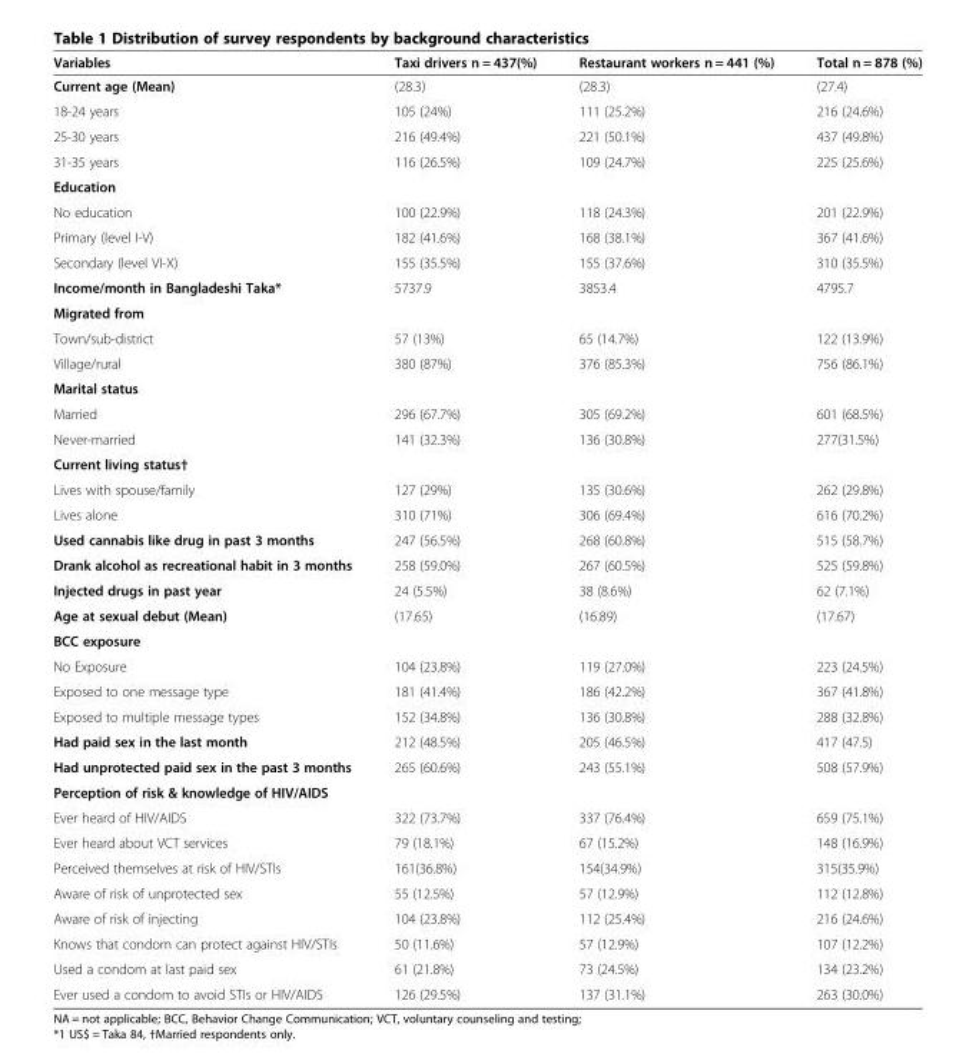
<table><thead><tr><td>Variables</td><td>Taxi drivers n = 437(%)</td><td>Restaurant workers n = 441 (%)</td><td>Total n = 878 (%)</td></tr></thead><tbody><tr><td>Current age (Mean)</td><td>(28.3)</td><td>(28.3)</td><td>(27.4)</td></tr><tr><td>18-24 years</td><td>105 (24%)</td><td>111 (25.2%)</td><td>216 (24.6%)</td></tr><tr><td>25-30 years</td><td>216 (49.4%)</td><td>221 (50.1%)</td><td>437 (49.8%)</td></tr><tr><td>31-35 years</td><td>116 (26.5%)</td><td>109 (24.7%)</td><td>225 (25.6%)</td></tr><tr><td colspan="4">Education</td></tr><tr><td>No education</td><td>100 (22.9%)</td><td>118 (24.3%)</td><td>201 (22.9%)</td></tr><tr><td>Primary (level I-V)</td><td>182 (41.6%)</td><td>168 (38.1%)</td><td>367 (41.6%)</td></tr><tr><td>Secondary (level VI-X)</td><td>155 (35.5%)</td><td>155 (37.6%)</td><td>310 (35.5%)</td></tr><tr><td>Income/month in Bangladeshi Taka*</td><td>5737.9</td><td>3853.4</td><td>4795.7</td></tr><tr><td colspan="4">Migrated from</td></tr><tr><td>Town/sub-district</td><td>57 (13%)</td><td>65 (14.7%)</td><td>122 (13.9%)</td></tr><tr><td>Village/rural</td><td>380 (87%)</td><td>376 (85.3%)</td><td>756 (86.1%)</td></tr><tr><td colspan="4">Marital status</td></tr><tr><td>Married</td><td>296 (67.7%)</td><td>305 (69.2%)</td><td>601 (68.5%)</td></tr><tr><td>Never-married</td><td>141 (32.3%)</td><td>136 (30.8%)</td><td>277(31.5%)</td></tr><tr><td colspan="4">Current living status†</td></tr><tr><td>Lives with spouse/family</td><td>127 (29%)</td><td>135 (30.6%)</td><td>262 (29.8%)</td></tr><tr><td>Lives alone</td><td>310 (71%)</td><td>306 (69.4%)</td><td>616 (70.2%)</td></tr><tr><td>Used cannabis like drug in past 3 months</td><td>247 (56.5%)</td><td>268 (60.8%)</td><td>515 (58.7%)</td></tr><tr><td>Drank alcohol as recreational habit in 3 months</td><td>258 (59.0%)</td><td>267 (60.5%)</td><td>525 (59.8%)</td></tr><tr><td>Injected drugs in past year</td><td>24 (5.5%)</td><td>38 (8.6%)</td><td>62 (7.1%)</td></tr><tr><td>Age at sexual debut (Mean)</td><td>(17.65)</td><td>(16.89)</td><td>(17.67)</td></tr><tr><td colspan="4">BCC exposure</td></tr><tr><td>No Exposure</td><td>104 (23.8%)</td><td>119 (27.0%)</td><td>223 (24.5%)</td></tr><tr><td>Exposed to one message type</td><td>181 (41.4%)</td><td>186 (42.2%)</td><td>367 (41.8%)</td></tr><tr><td>Exposed to multiple message types</td><td>152 (34.8%)</td><td>136 (30.8%)</td><td>288 (32.8%)</td></tr><tr><td>Had paid sex in the last month</td><td>212 (48.5%)</td><td>205 (46.5%)</td><td>417 (47.5)</td></tr><tr><td>Had unprotected paid sex in the past 3 months</td><td>265 (60.6%)</td><td>243 (55.1%)</td><td>508 (57.9%)</td></tr><tr><td colspan="4">Perception of risk &amp; knowledge of HIV/AIDS</td></tr><tr><td>Ever heard of HIV/AIDS</td><td>322 (73.7%)</td><td>337 (76.4%)</td><td>659 (75.1%)</td></tr><tr><td>Ever heard about VCT services</td><td>79 (18.1%)</td><td>67 (15.2%)</td><td>148 (16.9%)</td></tr><tr><td>Perceived themselves at risk of HIV/STIs</td><td>161(36.8%)</td><td>154(34.9%)</td><td>315(35.9%)</td></tr><tr><td>Aware of risk of unprotected sex</td><td>55 (12.5%)</td><td>57 (12.9%)</td><td>112 (12.8%)</td></tr><tr><td>Aware of risk of injecting</td><td>104 (23.8%)</td><td>112 (25.4%)</td><td>216 (24.6%)</td></tr><tr><td>Knows that condom can protect against HIV/STIs</td><td>50 (11.6%)</td><td>57 (12.9%)</td><td>107 (12.2%)</td></tr><tr><td>Used a condom at last paid sex</td><td>61 (21.8%)</td><td>73 (24.5%)</td><td>134 (23.2%)</td></tr><tr><td>Ever used a condom to avoid STIs or HIV/AIDS</td><td>126 (29.5%)</td><td>137 (31.1%)</td><td>263 (30.0%)</td></tr></tbody></table>